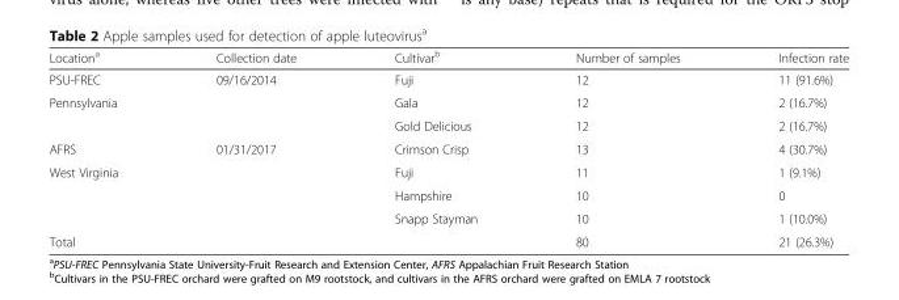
<table><thead><tr><td>Location<sup>a</sup></td><td>Collection date</td><td>Cultivar<sup>b</sup></td><td>Number of samples</td><td>Infection rate</td></tr></thead><tbody><tr><td>PSU-FREC</td><td>09/16/2014</td><td>Fuji</td><td>12</td><td>11 (91.6%)</td></tr><tr><td rowspan="2">Pennsylvania</td><td></td><td>Gala</td><td>12</td><td>2 (16.7%)</td></tr><tr><td></td><td>Gold Delicious</td><td>12</td><td>2 (16.7%)</td></tr><tr><td>AFRS</td><td>01/31/2017</td><td>Crimson Crisp</td><td>13</td><td>4 (30.7%)</td></tr><tr><td rowspan="3">West Virginia</td><td></td><td>Fuji</td><td>11</td><td>1 (9.1%)</td></tr><tr><td></td><td>Hampshire</td><td>10</td><td>0</td></tr><tr><td></td><td>Snapp Stayman</td><td>10</td><td>1 (10.0%)</td></tr><tr><td>Total</td><td></td><td></td><td>80</td><td>21 (26.3%)</td></tr></tbody></table>